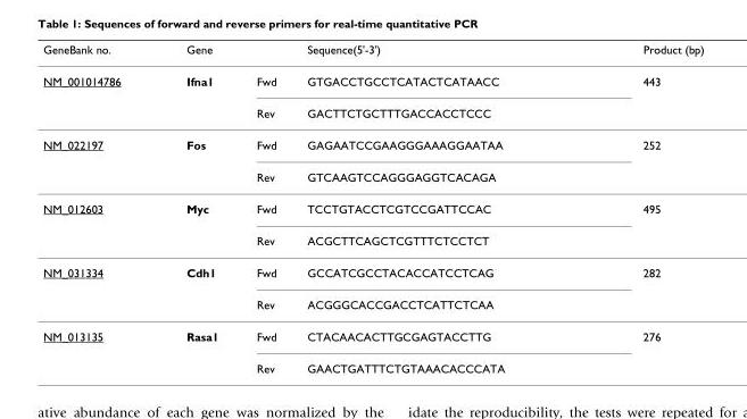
<table><thead><tr><td>GeneBank no.</td><td>Gene</td><td></td><td>Sequence(5&#x27;-3&#x27;)</td><td>Product (bp)</td></tr></thead><tbody><tr><td rowspan="2">NM_001014786</td><td>Ifna1</td><td>Fwd</td><td>GTGACCTGCCTCATACTCATAACC</td><td>443</td></tr><tr><td></td><td>Rev</td><td>GACTTCTGCTTTGACCACCTCCC</td><td></td></tr><tr><td rowspan="2">NM_022197</td><td>Fos</td><td>Fwd</td><td>GAGAATCCGAAGGGAAAGGAATAA</td><td>252</td></tr><tr><td></td><td>Rev</td><td>GTCAAGTCCAGGGAGGTCACAGA</td><td></td></tr><tr><td rowspan="2">NM_012603</td><td>Myc</td><td>Fwd</td><td>TCCTGTACCTCGTCCGATTCCAC</td><td>495</td></tr><tr><td></td><td>Rev</td><td>ACGCTTCAGCTCGTTTCTCCTCT</td><td></td></tr><tr><td rowspan="2">NM_031334</td><td>Cdh1</td><td>Fwd</td><td>GCCATCGCCTACACCATCCTCAG</td><td>282</td></tr><tr><td></td><td>Rev</td><td>ACGGGCACCGACCTCATTCTCAA</td><td></td></tr><tr><td rowspan="2">NM_013135</td><td>Rasa1</td><td>Fwd</td><td>CTACAACACTTGCGAGTACCTTG</td><td>276</td></tr><tr><td></td><td>Rev</td><td>GAACTGATTTCTGTAAACACCCATA</td><td></td></tr></tbody></table>